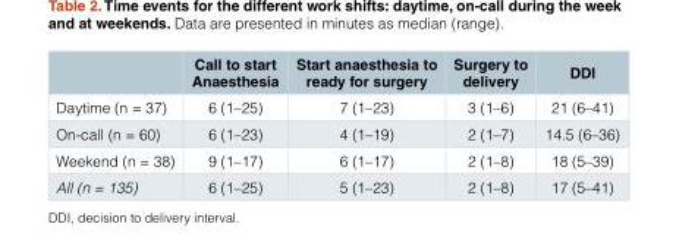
<table><thead><tr><td></td><td>Call to start Anaesthesia</td><td>Start anaesthesia to ready for surgery</td><td>Surgery to delivery</td><td>DDI</td></tr></thead><tbody><tr><td>Daytime (n = 37)</td><td>6 (1–25)</td><td>7 (1–23)</td><td>3 (1–6)</td><td>21 (6–41)</td></tr><tr><td>On-call (n = 60)</td><td>6 (1–23)</td><td>4 (1–19)</td><td>2 (1–7)</td><td>14.5 (6–36)</td></tr><tr><td>Weekend (n = 38)</td><td>9 (1–17)</td><td>6 (1–17)</td><td>2 (1–8)</td><td>18 (5–39)</td></tr><tr><td>All (n = 135)</td><td>6 (1–25)</td><td>5 (1–23)</td><td>2 (1–8)</td><td>17 (5–41)</td></tr></tbody></table>